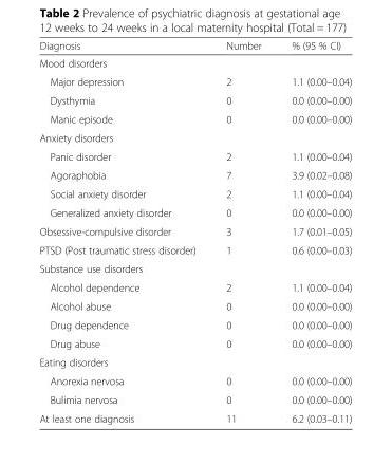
<table><thead><tr><td>Diagnosis</td><td>Number</td><td>% (95 % CI)</td></tr></thead><tbody><tr><td colspan="3">Mood disorders</td></tr><tr><td>Major depression</td><td>2</td><td>1.1 (0.00–0.04)</td></tr><tr><td>Dysthymia</td><td>0</td><td>0.0 (0.00–0.00)</td></tr><tr><td>Manic episode</td><td>0</td><td>0.0 (0.00–0.00)</td></tr><tr><td colspan="3">Anxiety disorders</td></tr><tr><td>Panic disorder</td><td>2</td><td>1.1 (0.00–0.04)</td></tr><tr><td>Agoraphobia</td><td>7</td><td>3.9 (0.02–0.08)</td></tr><tr><td>Social anxiety disorder</td><td>2</td><td>1.1 (0.00–0.04)</td></tr><tr><td>Generalized anxiety disorder</td><td>0</td><td>0.0 (0.00–0.00)</td></tr><tr><td>Obsessive-compulsive disorder</td><td>3</td><td>1.7 (0.01–0.05)</td></tr><tr><td>PTSD (Post traumatic stress disorder)</td><td>1</td><td>0.6 (0.00–0.03)</td></tr><tr><td colspan="3">Substance use disorders</td></tr><tr><td>Alcohol dependence</td><td>2</td><td>1.1 (0.00–0.04)</td></tr><tr><td>Alcohol abuse</td><td>0</td><td>0.0 (0.00–0.00)</td></tr><tr><td>Drug dependence</td><td>0</td><td>0.0 (0.00–0.00)</td></tr><tr><td>Drug abuse</td><td>0</td><td>0.0 (0.00–0.00)</td></tr><tr><td colspan="3">Eating disorders</td></tr><tr><td>Anorexia nervosa</td><td>0</td><td>0.0 (0.00–0.00)</td></tr><tr><td>Bulimia nervosa</td><td>0</td><td>0.0 (0.00–0.00)</td></tr><tr><td>At least one diagnosis</td><td>11</td><td>6.2 (0.03–0.11)</td></tr></tbody></table>